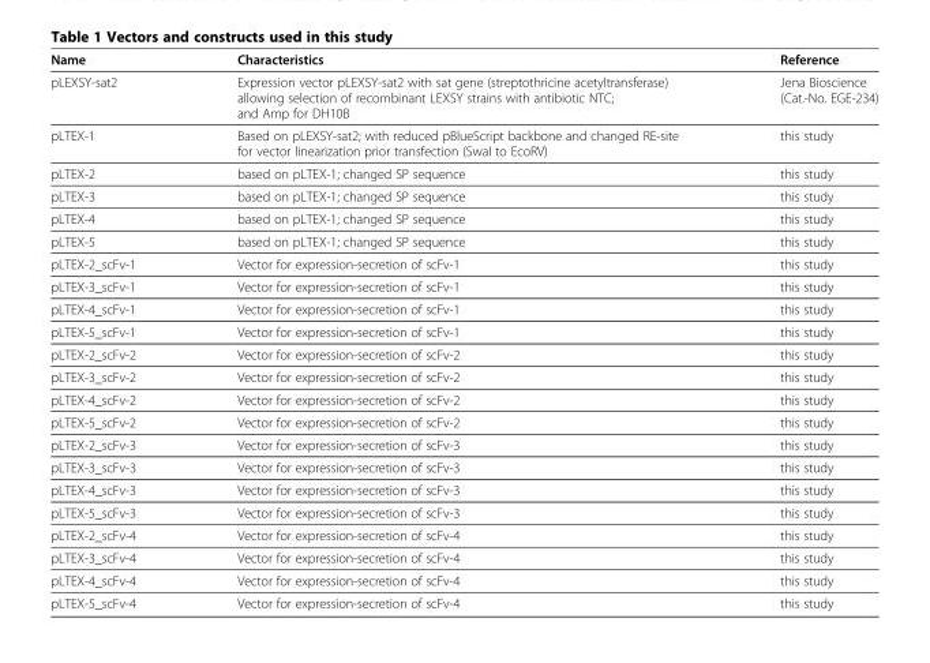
<table><thead><tr><td>Name</td><td>Characteristics</td><td>Reference</td></tr></thead><tbody><tr><td>pLEXSY-sat2</td><td>Expression vector pLEXSY-sat2 with sat gene (streptothricine acetyltransferase) allowing selection of recombinant LEXSY strains with antibiotic NTC; and Amp for DH10B</td><td>Jena Bioscience (Cat.-No. EGE-234)</td></tr><tr><td>pLTEX-1</td><td>Based on pLEXSY-sat2; with reduced pBlueScript backbone and changed RE-site for vector linearization prior transfection (SwaI to EcoRV)</td><td>this study</td></tr><tr><td>pLTEX-2</td><td>based on pLTEX-1; changed SP sequence</td><td>this study</td></tr><tr><td>pLTEX-3</td><td>based on pLTEX-1; changed SP sequence</td><td>this study</td></tr><tr><td>pLTEX-4</td><td>based on pLTEX-1; changed SP sequence</td><td>this study</td></tr><tr><td>pLTEX-5</td><td>based on pLTEX-1; changed SP sequence</td><td>this study</td></tr><tr><td>pLTEX-2_scFv-1</td><td>Vector for expression-secretion of scFv-1</td><td>this study</td></tr><tr><td>pLTEX-3_scFv-1</td><td>Vector for expression-secretion of scFv-1</td><td>this study</td></tr><tr><td>pLTEX-4_scFv-1</td><td>Vector for expression-secretion of scFv-1</td><td>this study</td></tr><tr><td>pLTEX-5_scFv-1</td><td>Vector for expression-secretion of scFv-1</td><td>this study</td></tr><tr><td>pLTEX-2_scFv-2</td><td>Vector for expression-secretion of scFv-2</td><td>this study</td></tr><tr><td>pLTEX-3_scFv-2</td><td>Vector for expression-secretion of scFv-2</td><td>this study</td></tr><tr><td>pLTEX-4_scFv-2</td><td>Vector for expression-secretion of scFv-2</td><td>this study</td></tr><tr><td>pLTEX-5_scFv-2</td><td>Vector for expression-secretion of scFv-2</td><td>this study</td></tr><tr><td>pLTEX-2_scFv-3</td><td>Vector for expression-secretion of scFv-3</td><td>this study</td></tr><tr><td>pLTEX-3_scFv-3</td><td>Vector for expression-secretion of scFv-3</td><td>this study</td></tr><tr><td>pLTEX-4_scFv-3</td><td>Vector for expression-secretion of scFv-3</td><td>this study</td></tr><tr><td>pLTEX-5_scFv-3</td><td>Vector for expression-secretion of scFv-3</td><td>this study</td></tr><tr><td>pLTEX-2_scFv-4</td><td>Vector for expression-secretion of scFv-4</td><td>this study</td></tr><tr><td>pLTEX-3_scFv-4</td><td>Vector for expression-secretion of scFv-4</td><td>this study</td></tr><tr><td>pLTEX-4_scFv-4</td><td>Vector for expression-secretion of scFv-4</td><td>this study</td></tr><tr><td>pLTEX-5_scFv-4</td><td>Vector for expression-secretion of scFv-4</td><td>this study</td></tr></tbody></table>